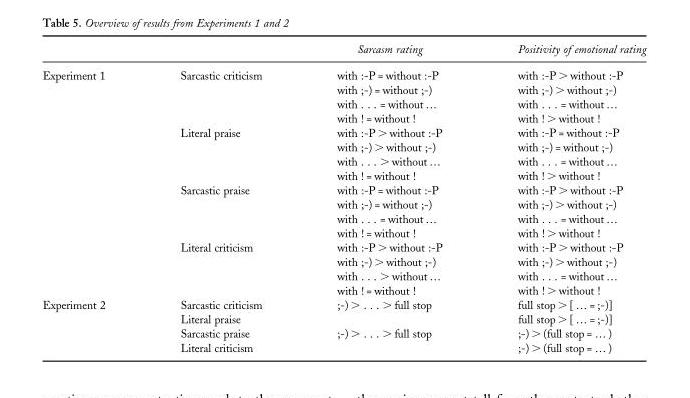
<table><thead><tr><td></td><td></td><td>Sarcasm rating</td><td>Positivity of emotional rating</td></tr></thead><tbody><tr><td rowspan="4">Experiment 1</td><td>Sarcastic criticism</td><td>with :-P = without :-P with ;-) = without ;-) with . . . = without … with ! = without !</td><td>with :-P &gt; without :-P with ;-) &gt; without ;-) with . . . = without … with ! &gt; without !</td></tr><tr><td>Literal praise</td><td>with :-P &gt; without :-P with ;-) &gt; without ;-) with . . . &gt; without … with ! = without !</td><td>with :-P = without :-P with ;-) = without ;-) with . . . = without … with ! &gt; without !</td></tr><tr><td>Sarcastic praise</td><td>with :-P = without :-P with ;-) = without ;-) with . . . = without … with ! = without !</td><td>with :-P &gt; without :-P with ;-) &gt; without ;-) with . . . = without … with ! &gt; without !</td></tr><tr><td>Literal criticism</td><td>with :-P &gt; without :-P with ;-) &gt; without ;-) with . . . &gt; without … with ! = without !</td><td>with :-P &gt; without :-P with ;-) &gt; without ;-) with . . . = without … with ! &gt; without !</td></tr><tr><td rowspan="4">Experiment 2</td><td>Sarcastic criticism</td><td rowspan="2">;-) &gt; . . . &gt; full stop</td><td>full stop &gt; [ … = ;-)]</td></tr><tr><td>Literal praise</td><td>full stop &gt; [ … = ;-)]</td></tr><tr><td>Sarcastic praise</td><td rowspan="2">;-) &gt; . . . &gt; full stop</td><td>;-) &gt; (full stop = … )</td></tr><tr><td>Literal criticism</td><td>;-) &gt; (full stop = … )</td></tr></tbody></table>